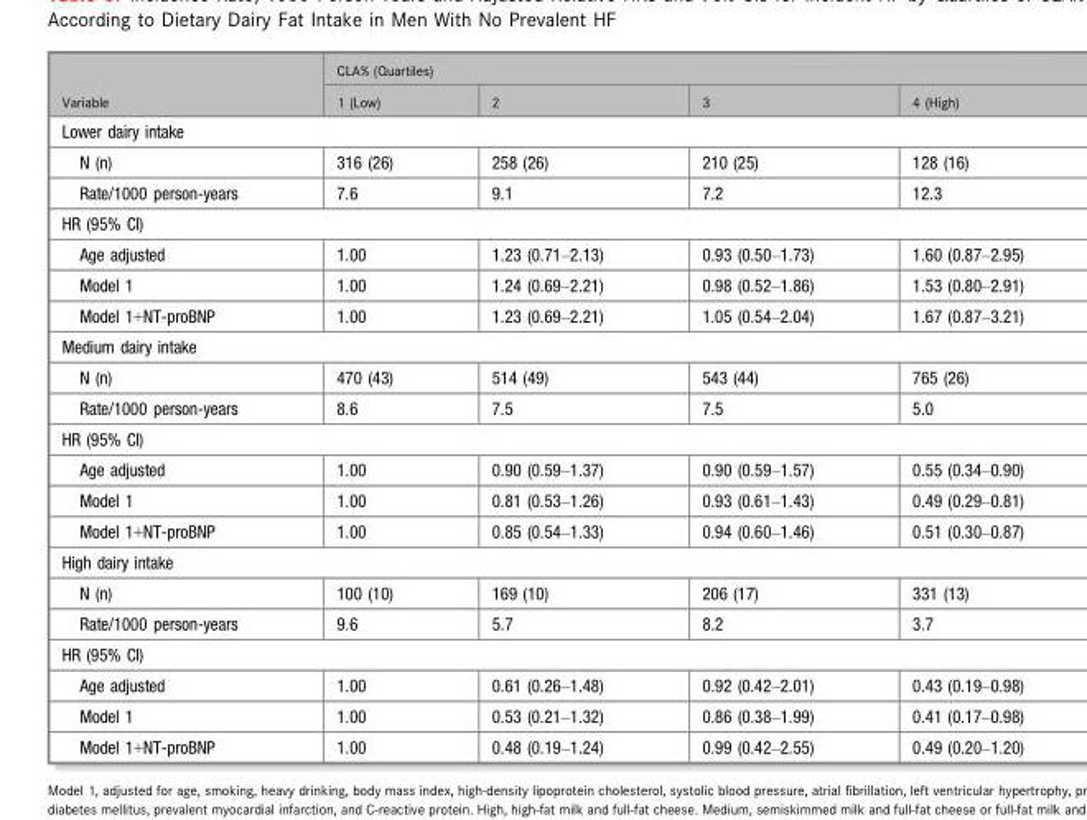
<table><thead><tr><td rowspan="2">Variable</td><td colspan="4">CLA% (Quartiles)</td></tr><tr><td>1 (Low)</td><td>2</td><td>3</td><td>4 (High)</td></tr></thead><tbody><tr><td colspan="5">Lower dairy intake</td></tr><tr><td>N (n)</td><td>316 (26)</td><td>258 (26)</td><td>210 (25)</td><td>128 (16)</td></tr><tr><td>Rate/1000 person-years</td><td>7.6</td><td>9.1</td><td>7.2</td><td>12.3</td></tr><tr><td colspan="5">HR (95% CI)</td></tr><tr><td>Age adjusted</td><td>1.00</td><td>1.23 (0.71–2.13)</td><td>0.93 (0.50–1.73)</td><td>1.60 (0.87–2.95)</td></tr><tr><td>Model 1</td><td>1.00</td><td>1.24 (0.69–2.21)</td><td>0.98 (0.52–1.86)</td><td>1.53 (0.80–2.91)</td></tr><tr><td>Model 1+NT-proBNP</td><td>1.00</td><td>1.23 (0.69–2.21)</td><td>1.05 (0.54–2.04)</td><td>1.67 (0.87–3.21)</td></tr><tr><td colspan="5">Medium dairy intake</td></tr><tr><td>N (n)</td><td>470 (43)</td><td>514 (49)</td><td>543 (44)</td><td>765 (26)</td></tr><tr><td>Rate/1000 person-years</td><td>8.6</td><td>7.5</td><td>7.5</td><td>5.0</td></tr><tr><td colspan="5">HR (95% CI)</td></tr><tr><td>Age adjusted</td><td>1.00</td><td>0.90 (0.59–1.37)</td><td>0.90 (0.59–1.57)</td><td>0.55 (0.34–0.90)</td></tr><tr><td>Model 1</td><td>1.00</td><td>0.81 (0.53–1.26)</td><td>0.93 (0.61–1.43)</td><td>0.49 (0.29–0.81)</td></tr><tr><td>Model 1+NT-proBNP</td><td>1.00</td><td>0.85 (0.54–1.33)</td><td>0.94 (0.60–1.46)</td><td>0.51 (0.30–0.87)</td></tr><tr><td colspan="5">High dairy intake</td></tr><tr><td>N (n)</td><td>100 (10)</td><td>169 (10)</td><td>206 (17)</td><td>331 (13)</td></tr><tr><td>Rate/1000 person-years</td><td>9.6</td><td>5.7</td><td>8.2</td><td>3.7</td></tr><tr><td colspan="5">HR (95% CI)</td></tr><tr><td>Age adjusted</td><td>1.00</td><td>0.61 (0.26–1.48)</td><td>0.92 (0.42–2.01)</td><td>0.43 (0.19–0.98)</td></tr><tr><td>Model 1</td><td>1.00</td><td>0.53 (0.21–1.32)</td><td>0.86 (0.38–1.99)</td><td>0.41 (0.17–0.98)</td></tr><tr><td>Model 1+NT-proBNP</td><td>1.00</td><td>0.48 (0.19–1.24)</td><td>0.99 (0.42–2.55)</td><td>0.49 (0.20–1.20)</td></tr></tbody></table>